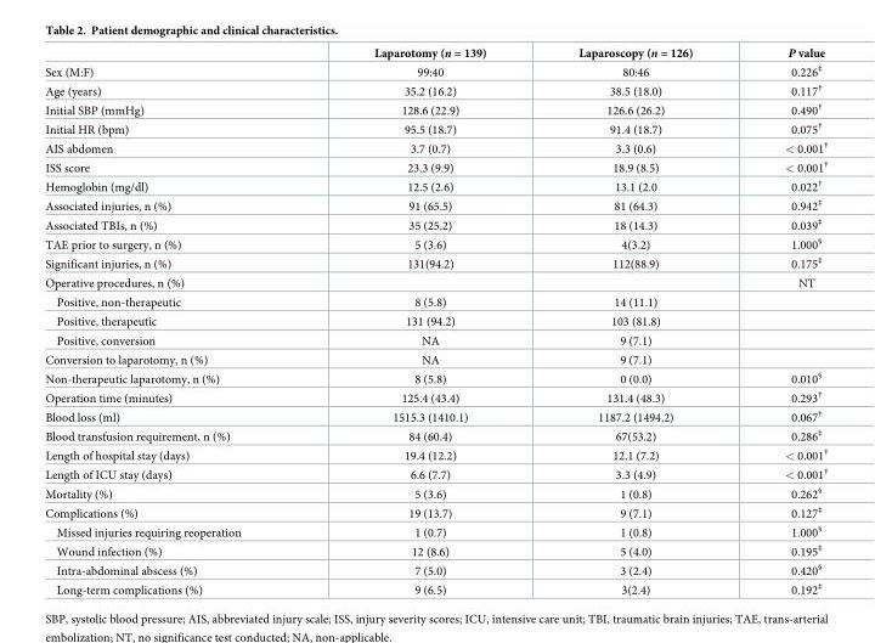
<table><thead><tr><td></td><td>Laparotomy (n = 139)</td><td>Laparoscopy (n = 126)</td><td>P value</td></tr></thead><tbody><tr><td>Sex (M:F)</td><td>99:40</td><td>80:46</td><td>0.226<sup>‡</sup></td></tr><tr><td>Age (years)</td><td>35.2 (16.2)</td><td>38.5 (18.0)</td><td>0.117<sup>†</sup></td></tr><tr><td>Initial SBP (mmHg)</td><td>128.6 (22.9)</td><td>126.6 (26.2)</td><td>0.490<sup>†</sup></td></tr><tr><td>Initial HR (bpm)</td><td>95.5 (18.7)</td><td>91.4 (18.7)</td><td>0.075<sup>†</sup></td></tr><tr><td>AIS abdomen</td><td>3.7 (0.7)</td><td>3.3 (0.6)</td><td>&lt; 0.001<sup>†</sup></td></tr><tr><td>ISS score</td><td>23.3 (9.9)</td><td>18.9 (8.5)</td><td>&lt; 0.001<sup>†</sup></td></tr><tr><td>Hemoglobin (mg/dl)</td><td>12.5 (2.6)</td><td>13.1 (2.0</td><td>0.022<sup>†</sup></td></tr><tr><td>Associated injuries, n (%)</td><td>91 (65.5)</td><td>81 (64.3)</td><td>0.942<sup>‡</sup></td></tr><tr><td>Associated TBIs, n (%)</td><td>35 (25.2)</td><td>18 (14.3)</td><td>0.039<sup>‡</sup></td></tr><tr><td>TAE prior to surgery, n (%)</td><td>5 (3.6)</td><td>4(3.2)</td><td>1.000<sup>§</sup></td></tr><tr><td>Significant injuries, n (%)</td><td>131(94.2)</td><td>112(88.9)</td><td>0.175<sup>‡</sup></td></tr><tr><td>Operative procedures, n (%)</td><td></td><td></td><td>NT</td></tr><tr><td>Positive, non-therapeutic</td><td>8 (5.8)</td><td>14 (11.1)</td><td></td></tr><tr><td>Positive, therapeutic</td><td>131 (94.2)</td><td>103 (81.8)</td><td></td></tr><tr><td>Positive, conversion</td><td>NA</td><td>9 (7.1)</td><td></td></tr><tr><td>Conversion to laparotomy, n (%)</td><td>NA</td><td>9 (7.1)</td><td></td></tr><tr><td>Non-therapeutic laparotomy, n (%)</td><td>8 (5.8)</td><td>0 (0.0)</td><td>0.010<sup>§</sup></td></tr><tr><td>Operation time (minutes)</td><td>125.4 (43.4)</td><td>131.4 (48.3)</td><td>0.293<sup>†</sup></td></tr><tr><td>Blood loss (ml)</td><td>1515.3 (1410.1)</td><td>1187.2 (1494.2)</td><td>0.067<sup>†</sup></td></tr><tr><td>Blood transfusion requirement, n (%)</td><td>84 (60.4)</td><td>67(53.2)</td><td>0.286<sup>‡</sup></td></tr><tr><td>Length of hospital stay (days)</td><td>19.4 (12.2)</td><td>12.1 (7.2)</td><td>&lt; 0.001<sup>†</sup></td></tr><tr><td>Length of ICU stay (days)</td><td>6.6 (7.7)</td><td>3.3 (4.9)</td><td>&lt; 0.001<sup>†</sup></td></tr><tr><td>Mortality (%)</td><td>5 (3.6)</td><td>1 (0.8)</td><td>0.262<sup>§</sup></td></tr><tr><td>Complications (%)</td><td>19 (13.7)</td><td>9 (7.1)</td><td>0.127<sup>‡</sup></td></tr><tr><td>Missed injuries requiring reoperation</td><td>1 (0.7)</td><td>1 (0.8)</td><td>1.000<sup>§</sup></td></tr><tr><td>Wound infection (%)</td><td>12 (8.6)</td><td>5 (4.0)</td><td>0.195<sup>‡</sup></td></tr><tr><td>Intra-abdominal abscess (%)</td><td>7 (5.0)</td><td>3 (2.4)</td><td>0.420<sup>§</sup></td></tr><tr><td>Long-term complications (%)</td><td>9 (6.5)</td><td>3(2.4)</td><td>0.192<sup>‡</sup></td></tr></tbody></table>